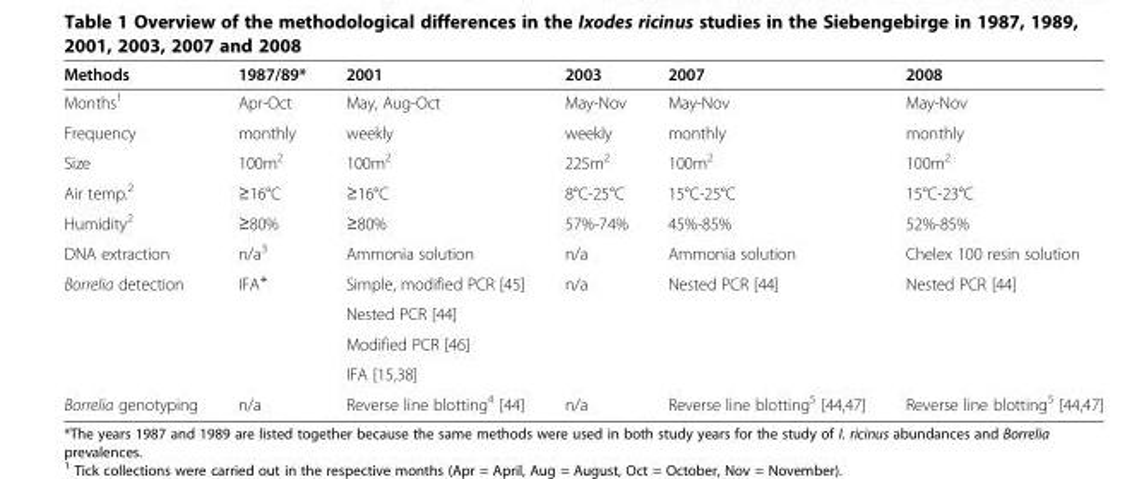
<table><thead><tr><td>Methods</td><td>1987/89*</td><td>2001</td><td>2003</td><td>2007</td><td>2008</td></tr></thead><tbody><tr><td>Months<sup>1</sup></td><td>Apr-Oct</td><td>May, Aug-Oct</td><td>May-Nov</td><td>May-Nov</td><td>May-Nov</td></tr><tr><td>Frequency</td><td>monthly</td><td>weekly</td><td>weekly</td><td>monthly</td><td>monthly</td></tr><tr><td>Size</td><td>100m<sup>2</sup></td><td>100m<sup>2</sup></td><td>225m<sup>2</sup></td><td>100m<sup>2</sup></td><td>100m<sup>2</sup></td></tr><tr><td>Air temp.<sup>2</sup></td><td>≥16°C</td><td>≥16°C</td><td>8°C-25°C</td><td>15°C-25°C</td><td>15°C-23°C</td></tr><tr><td>Humidity<sup>2</sup></td><td>≥80%</td><td>≥80%</td><td>57%-74%</td><td>45%-85%</td><td>52%-85%</td></tr><tr><td>DNA extraction</td><td>n/a<sup>3</sup></td><td>Ammonia solution</td><td>n/a</td><td>Ammonia solution</td><td>Chelex 100 resin solution</td></tr><tr><td rowspan="4">Borrelia detection</td><td rowspan="4">IFA<sup>+</sup></td><td>Simple, modified PCR [45]</td><td rowspan="4">n/a</td><td rowspan="4">Nested PCR [44]</td><td rowspan="4">Nested PCR [44]</td></tr><tr><td>Nested PCR [44]</td></tr><tr><td>Modified PCR [46]</td></tr><tr><td>IFA [15,38]</td></tr><tr><td>Borrelia genotyping</td><td>n/a</td><td>Reverse line blotting<sup>4</sup> [44]</td><td>n/a</td><td>Reverse line blotting<sup>5</sup> [44,47]</td><td>Reverse line blotting5</td></tr></tbody></table>